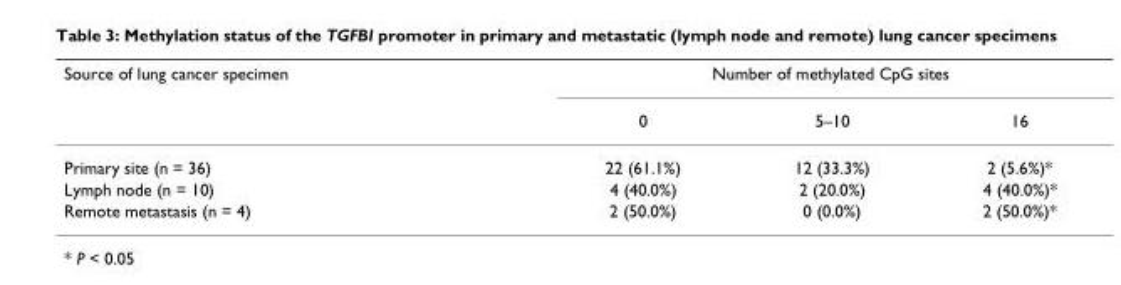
<table><thead><tr><td rowspan="2">Source of lung cancer specimen</td><td colspan="3">Number of methylated CpG sites</td></tr><tr><td>0</td><td>5–10</td><td>16</td></tr></thead><tbody><tr><td>Primary site (n = 36)</td><td>22 (61.1%)</td><td>12 (33.3%)</td><td>2 (5.6%)*</td></tr><tr><td>Lymph node (n = 10)</td><td>4 (40.0%)</td><td>2 (20.0%)</td><td>4 (40.0%)*</td></tr><tr><td>Remote metastasis (n = 4)</td><td>2 (50.0%)</td><td>0 (0.0%)</td><td>2 (50.0%)*</td></tr></tbody></table>